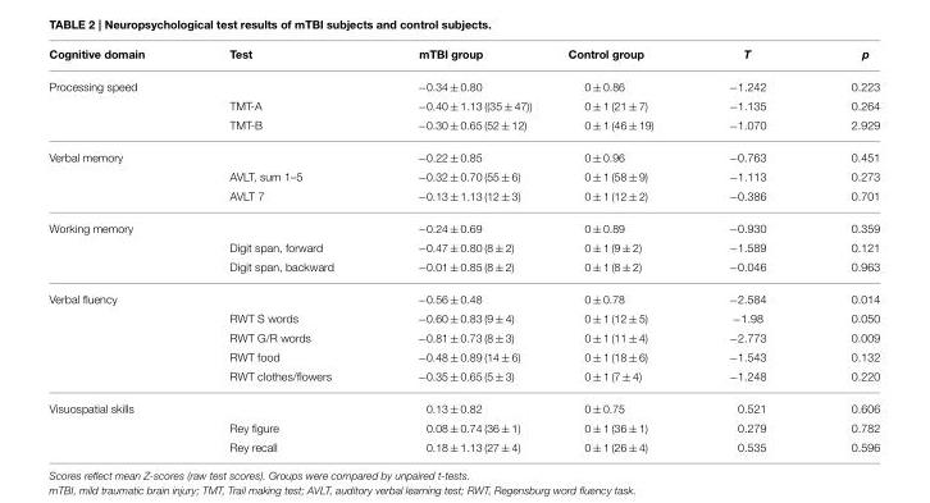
<table><thead><tr><td>Cognitive domain</td><td>Test</td><td>mTBI group</td><td>Control group</td><td>T</td><td>p</td></tr></thead><tbody><tr><td rowspan="3">Processing speed</td><td></td><td>−0.34 ± 0.80</td><td>0 ± 0.86</td><td>−1.242</td><td>0.223</td></tr><tr><td>TMT-A</td><td>−0.40 ± 1.13 ((35 ± 47))</td><td>0 ± 1 (21 ± 7)</td><td>−1.135</td><td>0.264</td></tr><tr><td>TMT-B</td><td>−0.30 ± 0.65 (52 ± 12)</td><td>0 ± 1 (46 ± 19)</td><td>−1.070</td><td>2.929</td></tr><tr><td rowspan="3">Verbal memory</td><td></td><td>−0.22 ± 0.85</td><td>0 ± 0.96</td><td>−0.763</td><td>0.451</td></tr><tr><td>AVLT, sum 1–5</td><td>−0.32 ± 0.70 (55 ± 6)</td><td>0 ± 1 (58 ± 9)</td><td>−1.113</td><td>0.273</td></tr><tr><td>AVLT 7</td><td>−0.13 ± 1.13 (12 ± 3)</td><td>0 ± 1 (12 ± 2)</td><td>−0.386</td><td>0.701</td></tr><tr><td rowspan="3">Working memory</td><td></td><td>−0.24 ± 0.69</td><td>0 ± 0.89</td><td>−0.930</td><td>0.359</td></tr><tr><td>Digit span, forward</td><td>−0.47 ± 0.80 (8 ± 2)</td><td>0 ± 1 (9 ± 2)</td><td>−1.589</td><td>0.121</td></tr><tr><td>Digit span, backward</td><td>−0.01 ± 0.85 (8 ± 2)</td><td>0 ± 1 (8 ± 2)</td><td>−0.046</td><td>0.963</td></tr><tr><td rowspan="5">Verbal fluency</td><td></td><td>−0.56 ± 0.48</td><td>0 ± 0.78</td><td>−2.584</td><td>0.014</td></tr><tr><td>RWT S words</td><td>−0.60 ± 0.83 (9 ± 4)</td><td>0 ± 1 (12 ± 5)</td><td>−1.98</td><td>0.050</td></tr><tr><td>RWT G/R words</td><td>−0.81 ± 0.73 (8 ± 3)</td><td>0 ± 1 (11 ± 4)</td><td>−2.773</td><td>0.009</td></tr><tr><td>RWT food</td><td>−0.48 ± 0.89 (14 ± 6)</td><td>0 ± 1 (18 ± 6)</td><td>−1.543</td><td>0.132</td></tr><tr><td>RWT clothes/flowers</td><td>−0.35 ± 0.65 (5 ± 3)</td><td>0 ± 1 (7 ± 4)</td><td>−1.248</td><td>0.220</td></tr><tr><td rowspan="3">Visuospatial skills</td><td></td><td>0.13 ± 0.82</td><td>0 ± 0.75</td><td>0.521</td><td>0.606</td></tr><tr><td>Rey figure</td><td>0.08 ± 0.74 (36 ± 1)</td><td>0 ± 1 (36 ± 1)</td><td>0.279</td><td>0.782</td></tr><tr><td>Rey recall</td><td>0.18 ± 1.13 (27 ± 4)</td><td>0 ± 1 (26 ± 4)</td><td>0.535</td><td>0.596</td></tr></tbody></table>